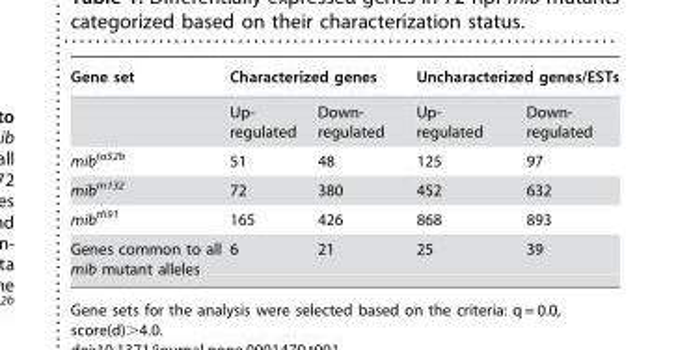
<table><thead><tr><td rowspan="2">Gene set</td><td colspan="2">Characterized genes</td><td colspan="2">Uncharacterized genes/ESTs</td></tr><tr><td>Up- regulated</td><td>Down- regulated</td><td>Up- regulated</td><td>Down- regulated</td></tr></thead><tbody><tr><td>mib<sup>ta52b</sup></td><td>51</td><td>48</td><td>125</td><td>97</td></tr><tr><td>mib<sup>m132</sup></td><td>72</td><td>380</td><td>452</td><td>632</td></tr><tr><td>mib<sup>tfi91</sup></td><td>165</td><td>426</td><td>868</td><td>893</td></tr><tr><td>Genes common to all mib mutant alleles</td><td>6</td><td>21</td><td>25</td><td>39</td></tr></tbody></table>